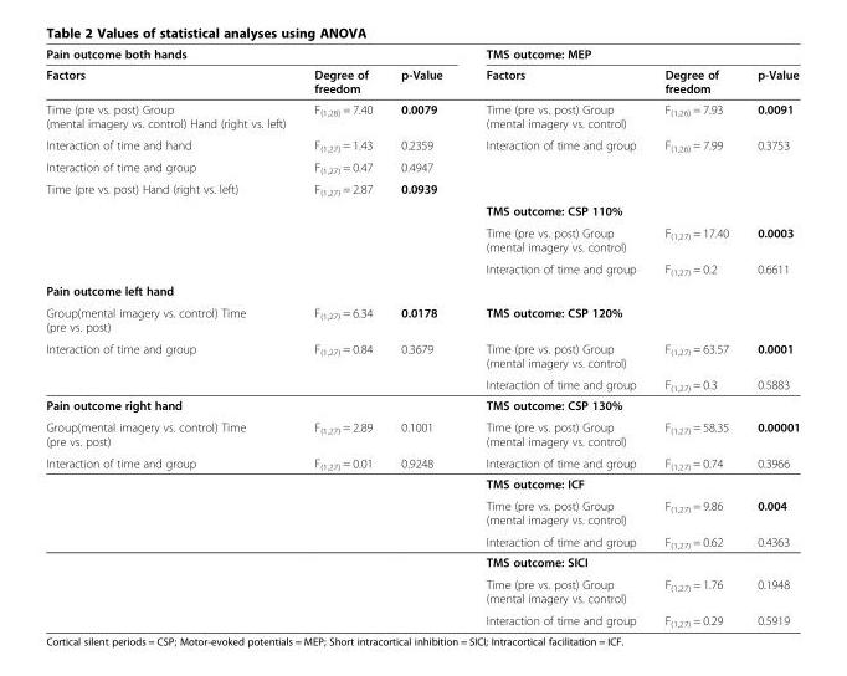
<table><thead><tr><td colspan="3">Pain outcome both hands</td><td colspan="3">TMS outcome: MEP</td></tr><tr><td>Factors</td><td>Degree of freedom</td><td>p-Value</td><td>Factors</td><td>Degree of freedom</td><td>p-Value</td></tr></thead><tbody><tr><td>Time (pre vs. post) Group (mental imagery vs. control) Hand (right vs. left)</td><td>F<sub>(1,28)</sub> = 7.40</td><td>0.0079</td><td>Time (pre vs. post) Group (mental imagery vs. control)</td><td>F<sub>(1,26)</sub> = 7.93</td><td>0.0091</td></tr><tr><td>Interaction of time and hand</td><td>F<sub>(1,27)</sub> = 1.43</td><td>0.2359</td><td>Interaction of time and group</td><td>F<sub>(1,26)</sub> = 7.99</td><td>0.3753</td></tr><tr><td>Interaction of time and group</td><td>F<sub>(1,27)</sub> = 0.47</td><td>0.4947</td><td></td><td></td><td></td></tr><tr><td rowspan="4">Time (pre vs. post) Hand (right vs. left)</td><td>F<sub>(1,27)</sub> = 2.87</td><td>0.0939</td><td></td><td></td><td></td></tr><tr><td></td><td></td><td colspan="3">TMS outcome: CSP 110%</td></tr><tr><td></td><td></td><td>Time (pre vs. post) Group (mental imagery vs. control)</td><td>F<sub>(1,27)</sub> = 17.40</td><td>0.0003</td></tr><tr><td></td><td></td><td>Interaction of time and group</td><td>F<sub>(1,27)</sub> = 0.2</td><td>0.6611</td></tr><tr><td colspan="6">Pain outcome left hand</td></tr><tr><td>Group(mental imagery vs. control) Time (pre vs. post)</td><td>F<sub>(1,27)</sub> = 6.34</td><td>0.0178</td><td colspan="3">TMS outcome: CSP 120%</td></tr><tr><td rowspan="2">Interaction of time and group</td><td>F<sub>(1,27)</sub> = 0.84</td><td>0.3679</td><td>Time (pre vs. post) Group (mental imagery vs. control)</td><td>F<sub>(1,27)</sub> = 63.57</td><td>0.0001</td></tr><tr><td></td><td></td><td>Interaction of time and group</td><td>F<sub>(1,27)</sub> = 0.3</td><td>0.5883</td></tr><tr><td colspan="3">Pain outcome right hand</td><td colspan="3">TMS outcome: CSP 130%</td></tr><tr><td>Group(mental imagery vs. control) Time (pre vs. post)</td><td>F<sub>(1,27)</sub> = 2.89</td><td>0.1001</td><td>Time (pre vs. post) Group (mental imagery vs. control)</td><td>F<sub>(1,27)</sub> = 58.35</td><td>0.00001</td></tr><tr><td rowspan="7">Interaction of time and group</td><td>F<sub>(1,27)</sub> = 0.01</td><td>0.9248</td><td>Interaction of time and group</td><td>F<sub>(1,27)</sub> = 0.74</td><td>0.3966</td></tr><tr><td></td><td></td><td colspan="3">TMS outcome: ICF</td></tr><tr><td></td><td></td><td>Time (pre vs. post) Group (mental imagery vs. control)</td><td>F<sub>(1,27)</sub> = 9.86</td><td>0.004</td></tr><tr><td></td><td></td><td>Interaction of time and group</td><td>F<sub>(1,27)</sub> = 0.62</td><td>0.4363</td></tr><tr><td></td><td></td><td colspan="3">TMS outcome: SICI</td></tr><tr><td></td><td></td><td>Time (pre vs. post) Group (mental imagery vs. control)</td><td>F<sub>(1,27)</sub> = 1.76</td><td>0.1948</td></tr><tr><td></td><td></td><td>Interaction of time and group</td><td>F<sub>(1,27)</sub> = 0.29</td><td>0.5919</td></tr></tbody></table>